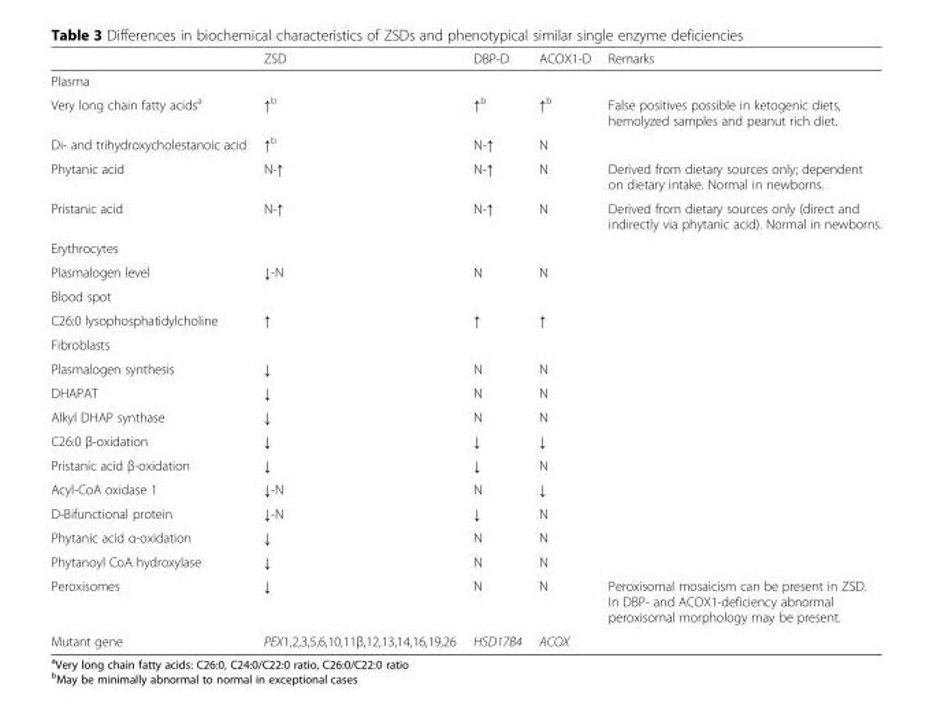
<table><thead><tr><td></td><td>ZSD</td><td>DBP-D</td><td>ACOX1-D</td><td>Remarks</td></tr></thead><tbody><tr><td colspan="5">Plasma</td></tr><tr><td>Very long chain fatty acids<sup>a</sup></td><td>↑<sup>b</sup></td><td>↑<sup>b</sup></td><td>↑<sup>b</sup></td><td>False positives possible in ketogenic diets, hemolyzed samples and peanut rich diet.</td></tr><tr><td>Di- and trihydroxycholestanoic acid</td><td>↑<sup>b</sup></td><td>N-↑</td><td>N</td><td></td></tr><tr><td>Phytanic acid</td><td>N-↑</td><td>N-↑</td><td>N</td><td>Derived from dietary sources only; dependent on dietary intake. Normal in newborns.</td></tr><tr><td>Pristanic acid</td><td>N-↑</td><td>N-↑</td><td>N</td><td>Derived from dietary sources only (direct and indirectly via phytanic acid). Normal in newborns.</td></tr><tr><td colspan="5">Erythrocytes</td></tr><tr><td>Plasmalogen level</td><td>↓-N</td><td>N</td><td>N</td><td></td></tr><tr><td colspan="5">Blood spot</td></tr><tr><td>C26:0 lysophosphatidylcholine</td><td>↑</td><td>↑</td><td>↑</td><td></td></tr><tr><td colspan="5">Fibroblasts</td></tr><tr><td>Plasmalogen synthesis</td><td>↓</td><td>N</td><td>N</td><td></td></tr><tr><td>DHAPAT</td><td>↓</td><td>N</td><td>N</td><td></td></tr><tr><td>Alkyl DHAP synthase</td><td>↓</td><td>N</td><td>N</td><td></td></tr><tr><td>C26:0 β-oxidation</td><td>↓</td><td>↓</td><td>↓</td><td></td></tr><tr><td>Pristanic acid β-oxidation</td><td>↓</td><td>↓</td><td>N</td><td></td></tr><tr><td>Acyl-CoA oxidase 1</td><td>↓-N</td><td>N</td><td>↓</td><td></td></tr><tr><td>D-Bifunctional protein</td><td>↓-N</td><td>↓</td><td>N</td><td></td></tr><tr><td>Phytanic acid α-oxidation</td><td>↓</td><td>N</td><td>N</td><td></td></tr><tr><td>Phytanoyl CoA hydroxylase</td><td>↓</td><td>N</td><td>N</td><td></td></tr><tr><td>Peroxisomes</td><td>↓</td><td>N</td><td>N</td><td>Peroxisomal mosaicism can be present in ZSD. In DBP- and ACOX1-deficiency abnormal peroxisomal morphology may be present.</td></tr><tr><td>Mutant gene</td><td>PEX1,2,3,5,6,10,11β,12,13,14,16,19,26</td><td>HSD17B4</td><td>ACOX</td><td></td></tr></tbody></table>